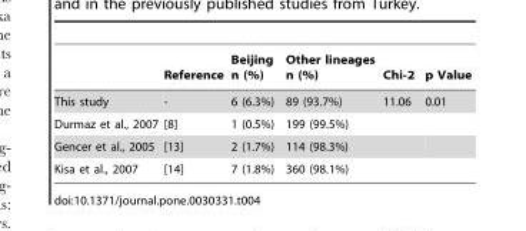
<table><thead><tr><td></td><td>Reference</td><td>Beijing n (%)</td><td>Other lineages n (%)</td><td>Chi-2</td><td>p Value</td></tr></thead><tbody><tr><td>This study</td><td>-</td><td>6 (6.3%)</td><td>89 (93.7%)</td><td>11.06</td><td>0.01</td></tr><tr><td>Durmaz et al., 2007</td><td>[8]</td><td>1 (0.5%)</td><td>199 (99.5%)</td><td></td><td></td></tr><tr><td>Gencer et al., 2005</td><td>[13]</td><td>2 (1.7%)</td><td>114 (98.3%)</td><td></td><td></td></tr><tr><td>Kisa et al., 2007</td><td>[14]</td><td>7 (1.8%)</td><td>360 (98.1%)</td><td></td><td></td></tr></tbody></table>